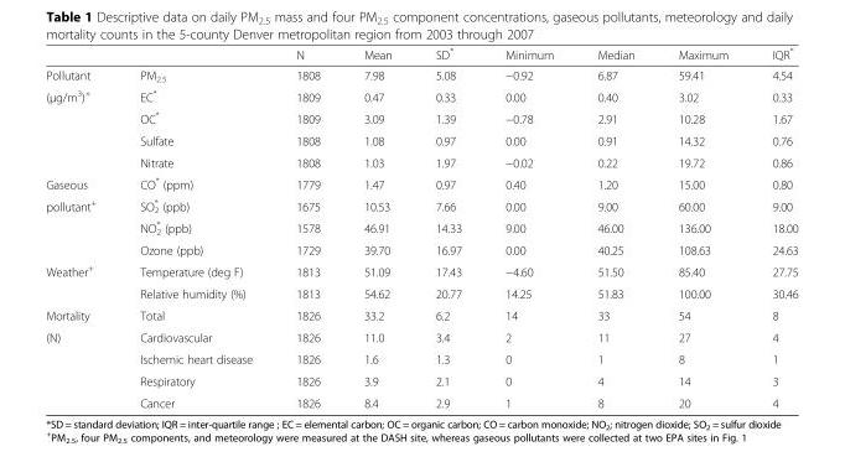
<table><thead><tr><td></td><td></td><td>N</td><td>Mean</td><td>SD*</td><td>Minimum</td><td>Median</td><td>Maximum</td><td>IQR*</td></tr></thead><tbody><tr><td>Pollutant</td><td>PM<sub>2.5</sub></td><td>1808</td><td>7.98</td><td>5.08</td><td>−0.92</td><td>6.87</td><td>59.41</td><td>4.54</td></tr><tr><td rowspan="4">(μg/m<sup>3</sup>)<sup>+</sup></td><td>EC*</td><td>1809</td><td>0.47</td><td>0.33</td><td>0.00</td><td>0.40</td><td>3.02</td><td>0.33</td></tr><tr><td>OC*</td><td>1809</td><td>3.09</td><td>1.39</td><td>−0.78</td><td>2.91</td><td>10.28</td><td>1.67</td></tr><tr><td>Sulfate</td><td>1808</td><td>1.08</td><td>0.97</td><td>0.00</td><td>0.91</td><td>14.32</td><td>0.76</td></tr><tr><td>Nitrate</td><td>1808</td><td>1.03</td><td>1.97</td><td>−0.02</td><td>0.22</td><td>19.72</td><td>0.86</td></tr><tr><td>Gaseous</td><td>CO* (ppm)</td><td>1779</td><td>1.47</td><td>0.97</td><td>0.40</td><td>1.20</td><td>15.00</td><td>0.80</td></tr><tr><td rowspan="3">pollutant<sup>+</sup></td><td>SO<sub>2</sub> * (ppb)</td><td>1675</td><td>10.53</td><td>7.66</td><td>0.00</td><td>9.00</td><td>60.00</td><td>9.00</td></tr><tr><td>NO<sub>2</sub> * (ppb)</td><td>1578</td><td>46.91</td><td>14.33</td><td>9.00</td><td>46.00</td><td>136.00</td><td>18.00</td></tr><tr><td>Ozone (ppb)</td><td>1729</td><td>39.70</td><td>16.97</td><td>0.00</td><td>40.25</td><td>108.63</td><td>24.63</td></tr><tr><td rowspan="2">Weather<sup>+</sup></td><td>Temperature (deg F)</td><td>1813</td><td>51.09</td><td>17.43</td><td>−4.60</td><td>51.50</td><td>85.40</td><td>27.75</td></tr><tr><td>Relative humidity (%)</td><td>1813</td><td>54.62</td><td>20.77</td><td>14.25</td><td>51.83</td><td>100.00</td><td>30.46</td></tr><tr><td>Mortality</td><td>Total</td><td>1826</td><td>33.2</td><td>6.2</td><td>14</td><td>33</td><td>54</td><td>8</td></tr><tr><td rowspan="4">(N)</td><td>Cardiovascular</td><td>1826</td><td>11.0</td><td>3.4</td><td>2</td><td>11</td><td>27</td><td>4</td></tr><tr><td>Ischemic heart disease</td><td>1826</td><td>1.6</td><td>1.3</td><td>0</td><td>1</td><td>8</td><td>1</td></tr><tr><td>Respiratory</td><td>1826</td><td>3.9</td><td>2.1</td><td>0</td><td>4</td><td>14</td><td>3</td></tr><tr><td>Cancer</td><td>1826</td><td>8.4</td><td>2.9</td><td>1</td><td>8</td><td>20</td><td>4</td></tr></tbody></table>